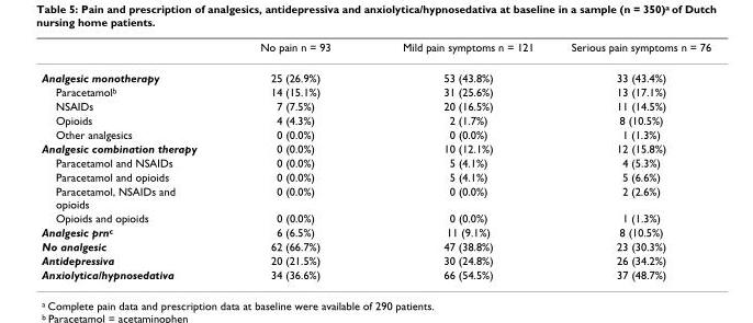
<table><thead><tr><td></td><td>No pain n = 93</td><td>Mild pain symptoms n = 121</td><td>Serious pain symptoms n = 76</td></tr></thead><tbody><tr><td>Analgesic monotherapy</td><td>25 (26.9%)</td><td>53 (43.8%)</td><td>33 (43.4%)</td></tr><tr><td>Paracetamolb</td><td>14 (15.1%)</td><td>31 (25.6%)</td><td>13 (17.1%)</td></tr><tr><td>NSAIDs</td><td>7 (7.5%)</td><td>20 (16.5%)</td><td>11 (14.5%)</td></tr><tr><td>Opioids</td><td>4 (4.3%)</td><td>2 (1.7%)</td><td>8 (10.5%)</td></tr><tr><td>Other analgesics</td><td>0 (0.0%)</td><td>0 (0.0%)</td><td>1 (1.3%)</td></tr><tr><td>Analgesic combination therapy</td><td>0 (0.0%)</td><td>10 (12.1%)</td><td>12 (15.8%)</td></tr><tr><td>Paracetamol and NSAIDs</td><td>0 (0.0%)</td><td>5 (4.1%)</td><td>4 (5.3%)</td></tr><tr><td>Paracetamol and opioids</td><td>0 (0.0%)</td><td>5 (4.1%)</td><td>5 (6.6%)</td></tr><tr><td>Paracetamol, NSAIDs and opioids</td><td>0 (0.0%)</td><td>0 (0.0%)</td><td>2 (2.6%)</td></tr><tr><td>Opioids and opioids</td><td>0 (0.0%)</td><td>0 (0.0%)</td><td>1 (1.3%)</td></tr><tr><td>Analgesic prnc</td><td>6 (6.5%)</td><td>11 (9.1%)</td><td>8 (10.5%)</td></tr><tr><td>No analgesic</td><td>62 (66.7%)</td><td>47 (38.8%)</td><td>23 (30.3%)</td></tr><tr><td>Antidepressiva</td><td>20 (21.5%)</td><td>30 (24.8%)</td><td>26 (34.2%)</td></tr><tr><td>Anxiolytica/hypnosedativa</td><td>34 (36.6%)</td><td>66 (54.5%)</td><td>37 (48.7%)</td></tr></tbody></table>